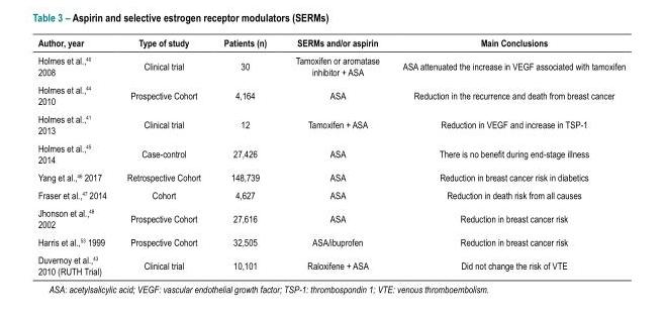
<table><thead><tr><td>Author, year</td><td>Type of study</td><td>Patients (n)</td><td>SERMs and/or aspirin</td><td>Main Conclusions</td></tr></thead><tbody><tr><td>Holmes et al.,<sup>40</sup> 2008</td><td>Clinical trial</td><td>30</td><td>Tamoxifen or aromatase inhibitor + ASA</td><td>ASA attenuated the increase in VEGF associated with tamoxifen</td></tr><tr><td>Holmes et al.,<sup>44</sup> 2010</td><td>Prospective Cohort</td><td>4,164</td><td>ASA</td><td>Reduction in the recurrence and death from breast cancer</td></tr><tr><td>Holmes et al.,<sup>41</sup> 2013</td><td>Clinical trial</td><td>12</td><td>Tamoxifen + ASA</td><td>Reduction in VEGF and increase in TSP-1</td></tr><tr><td>Holmes et al.,<sup>45</sup> 2014</td><td>Case-control</td><td>27,426</td><td>ASA</td><td>There is no benefit during end-stage illness</td></tr><tr><td>Yang et al.,<sup>46</sup> 2017</td><td>Retrospective Cohort</td><td>148,739</td><td>ASA</td><td>Reduction in breast cancer risk in diabetics</td></tr><tr><td>Fraser et al.,<sup>47</sup> 2014</td><td>Cohort</td><td>4,627</td><td>ASA</td><td>Reduction in death risk from all causes</td></tr><tr><td>Jhonson et al.,<sup>48</sup> 2002</td><td>Prospective Cohort</td><td>27,616</td><td>ASA</td><td>Reduction in breast cancer risk</td></tr><tr><td>Harris et al.,<sup>53</sup> 1999</td><td>Prospective Cohort</td><td>32,505</td><td>ASA/ibuprofen</td><td>Reduction in breast cancer risk</td></tr><tr><td>Duvernoy et al.,<sup>43</sup> 2010 (RUTH Trial)</td><td>Clinical trial</td><td>10,101</td><td>Raloxifene + ASA</td><td>Did not change the risk of VTE</td></tr></tbody></table>